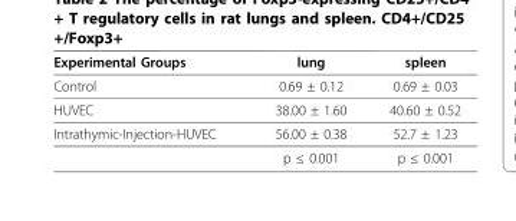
<table><thead><tr><td>Experimental Groups</td><td>lung</td><td>spleen</td></tr></thead><tbody><tr><td>Control</td><td>0.69 ± 0.12</td><td>0.69 ± 0.03</td></tr><tr><td>HUVEC</td><td>38.00 ± 1.60</td><td>40.60 ± 0.52</td></tr><tr><td rowspan="2">Intrathymic-Injection-HUVEC</td><td>56.00 ± 0.38</td><td>52.7 ± 1.23</td></tr><tr><td>p ≤ 0.001</td><td>p ≤ 0.001</td></tr></tbody></table>